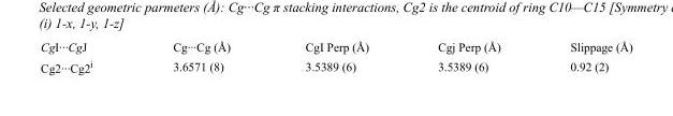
<table><tbody><tr><td>CgI···CgJ</td><td>Cg···Cg (Å)</td><td>CgI Perp (Å)</td><td>Cgj Perp (Å)</td><td>Slippage (Å)</td></tr><tr><td>Cg2···Cg2<sup>i</sup></td><td>3.6571 (8)</td><td>3.5389 (6)</td><td>3.5389 (6)</td><td>0.92 (2)</td></tr></tbody></table>